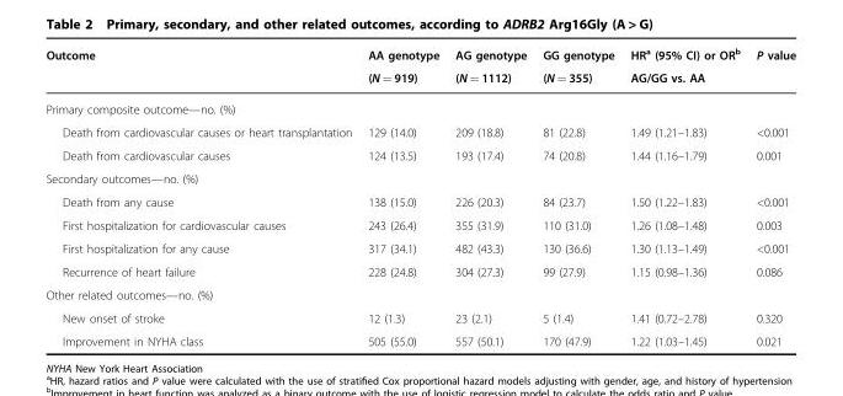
<table><thead><tr><td rowspan="2">Outcome</td><td rowspan="2">AA genotype (N = 919)</td><td rowspan="2">AG genotype (N = 1112)</td><td rowspan="2">GG genotype (N = 355)</td><td rowspan="2">HR<sup>a</sup> (95% CI) or OR<sup>b</sup> AG/GG vs. AA</td><td rowspan="2">P value</td></tr><tr></tr></thead><tbody><tr><td colspan="6">Primary composite outcome—no. (%)</td></tr><tr><td>Death from cardiovascular causes or heart transplantation</td><td>129 (14.0)</td><td>209 (18.8)</td><td>81 (22.8)</td><td>1.49 (1.21–1.83)</td><td>&lt;0.001</td></tr><tr><td>Death from cardiovascular causes</td><td>124 (13.5)</td><td>193 (17.4)</td><td>74 (20.8)</td><td>1.44 (1.16–1.79)</td><td>0.001</td></tr><tr><td colspan="6">Secondary outcomes—no. (%)</td></tr><tr><td>Death from any cause</td><td>138 (15.0)</td><td>226 (20.3)</td><td>84 (23.7)</td><td>1.50 (1.22–1.83)</td><td>&lt;0.001</td></tr><tr><td>First hospitalization for cardiovascular causes</td><td>243 (26.4)</td><td>355 (31.9)</td><td>110 (31.0)</td><td>1.26 (1.08–1.48)</td><td>0.003</td></tr><tr><td>First hospitalization for any cause</td><td>317 (34.1)</td><td>482 (43.3)</td><td>130 (36.6)</td><td>1.30 (1.13–1.49)</td><td>&lt;0.001</td></tr><tr><td>Recurrence of heart failure</td><td>228 (24.8)</td><td>304 (27.3)</td><td>99 (27.9)</td><td>1.15 (0.98–1.36)</td><td>0.086</td></tr><tr><td colspan="6">Other related outcomes—no. (%)</td></tr><tr><td>New onset of stroke</td><td>12 (1.3)</td><td>23 (2.1)</td><td>5 (1.4)</td><td>1.41 (0.72–2.78)</td><td>0.320</td></tr><tr><td>Improvement in NYHA class</td><td>505 (55.0)</td><td>557 (50.1)</td><td>170 (47.9)</td><td>1.22 (1.03–1.45)</td><td>0.021</td></tr></tbody></table>